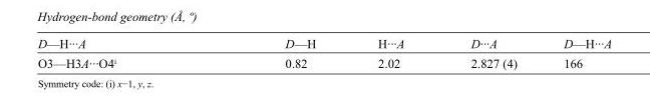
<table><tbody><tr><td>D—H···A</td><td>D—H</td><td>H···A</td><td>D···A</td><td>D—H···A</td></tr><tr><td>O3—H3A···O4<sup>i</sup></td><td>0.82</td><td>2.02</td><td>2.827 (4)</td><td>166</td></tr></tbody></table>